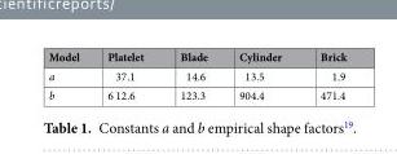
<table><thead><tr><td>Model</td><td>Platelet</td><td>Blade</td><td>Cylinder</td><td>Brick</td></tr></thead><tbody><tr><td>a</td><td>37.1</td><td>14.6</td><td>13.5</td><td>1.9</td></tr><tr><td>b</td><td>6 12.6</td><td>123.3</td><td>904.4</td><td>471.4</td></tr></tbody></table>